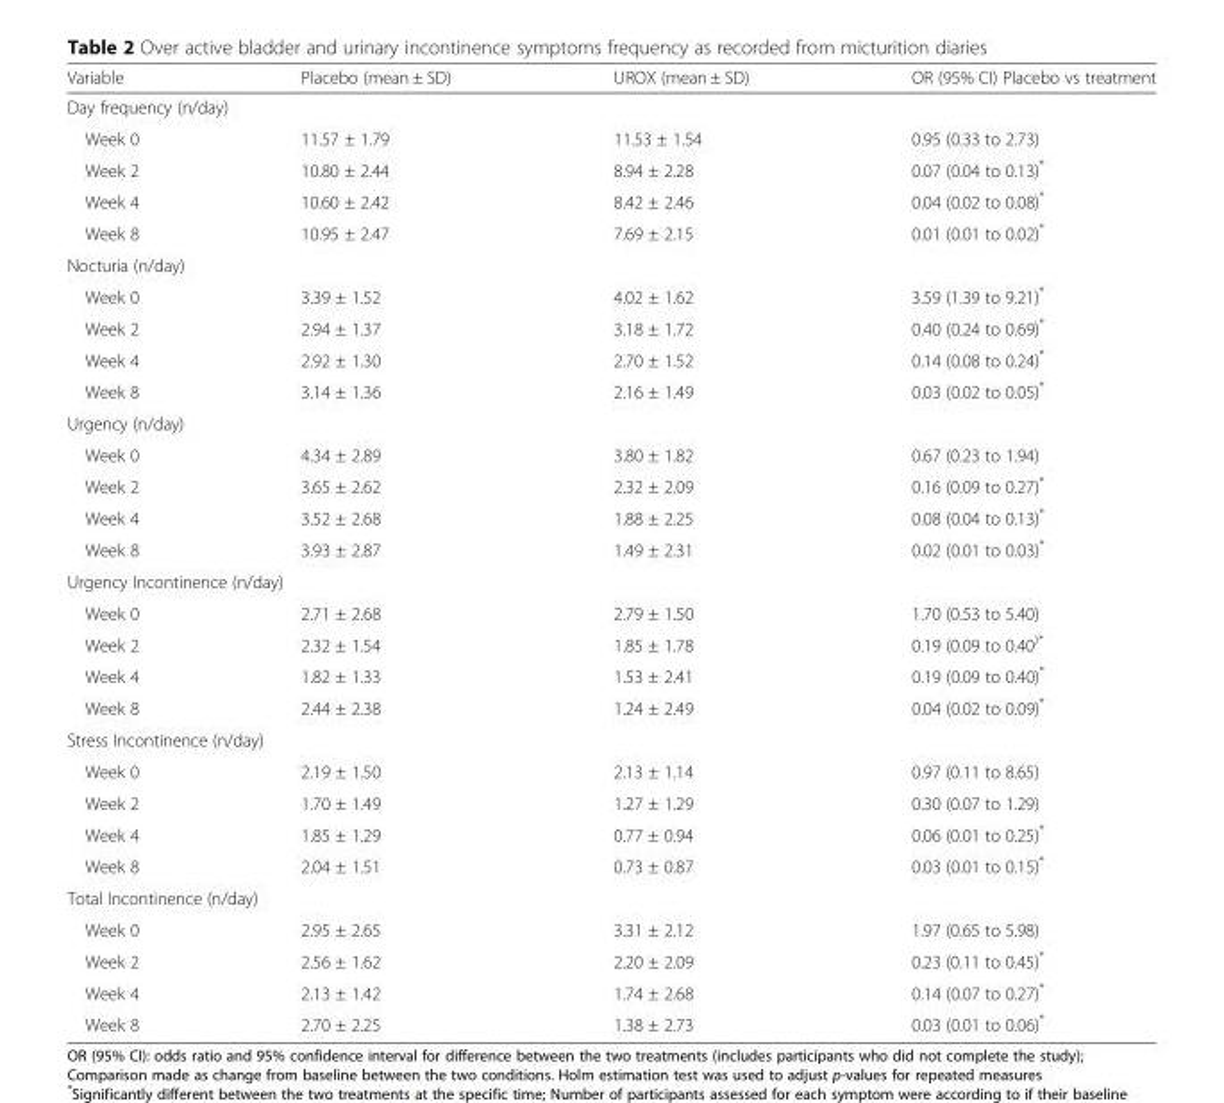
<table><thead><tr><td>Variable</td><td>Placebo (mean ± SD)</td><td>UROX (mean ± SD)</td><td>OR (95% CI) Placebo vs treatment</td></tr></thead><tbody><tr><td colspan="4">Day frequency (n/day)</td></tr><tr><td>Week 0</td><td>11.57 ± 1.79</td><td>11.53 ± 1.54</td><td>0.95 (0.33 to 2.73)</td></tr><tr><td>Week 2</td><td>10.80 ± 2.44</td><td>8.94 ± 2.28</td><td>0.07 (0.04 to 0.13)*</td></tr><tr><td>Week 4</td><td>10.60 ± 2.42</td><td>8.42 ± 2.46</td><td>0.04 (0.02 to 0.08)*</td></tr><tr><td>Week 8</td><td>10.95 ± 2.47</td><td>7.69 ± 2.15</td><td>0.01 (0.01 to 0.02)*</td></tr><tr><td colspan="4">Nocturia (n/day)</td></tr><tr><td>Week 0</td><td>3.39 ± 1.52</td><td>4.02 ± 1.62</td><td>3.59 (1.39 to 9.21)*</td></tr><tr><td>Week 2</td><td>2.94 ± 1.37</td><td>3.18 ± 1.72</td><td>0.40 (0.24 to 0.69)*</td></tr><tr><td>Week 4</td><td>2.92 ± 1.30</td><td>2.70 ± 1.52</td><td>0.14 (0.08 to 0.24)*</td></tr><tr><td>Week 8</td><td>3.14 ± 1.36</td><td>2.16 ± 1.49</td><td>0.03 (0.02 to 0.05)*</td></tr><tr><td colspan="4">Urgency (n/day)</td></tr><tr><td>Week 0</td><td>4.34 ± 2.89</td><td>3.80 ± 1.82</td><td>0.67 (0.23 to 1.94)</td></tr><tr><td>Week 2</td><td>3.65 ± 2.62</td><td>2.32 ± 2.09</td><td>0.16 (0.09 to 0.27)*</td></tr><tr><td>Week 4</td><td>3.52 ± 2.68</td><td>1.88 ± 2.25</td><td>0.08 (0.04 to 0.13)*</td></tr><tr><td>Week 8</td><td>3.93 ± 2.87</td><td>1.49 ± 2.31</td><td>0.02 (0.01 to 0.03)*</td></tr><tr><td colspan="4">Urgency Incontinence (n/day)</td></tr><tr><td>Week 0</td><td>2.71 ± 2.68</td><td>2.79 ± 1.50</td><td>1.70 (0.53 to 5.40)</td></tr><tr><td>Week 2</td><td>2.32 ± 1.54</td><td>1.85 ± 1.78</td><td>0.19 (0.09 to 0.40<sup>)*</sup></td></tr><tr><td>Week 4</td><td>1.82 ± 1.33</td><td>1.53 ± 2.41</td><td>0.19 (0.09 to 0.40)*</td></tr><tr><td>Week 8</td><td>2.44 ± 2.38</td><td>1.24 ± 2.49</td><td>0.04 (0.02 to 0.09)*</td></tr><tr><td colspan="4">Stress Incontinence (n/day)</td></tr><tr><td>Week 0</td><td>2.19 ± 1.50</td><td>2.13 ± 1.14</td><td>0.97 (0.11 to 8.65)</td></tr><tr><td>Week 2</td><td>1.70 ± 1.49</td><td>1.27 ± 1.29</td><td>0.30 (0.07 to 1.29)</td></tr><tr><td>Week 4</td><td>1.85 ± 1.29</td><td>0.77 ± 0.94</td><td>0.06 (0.01 to 0.25)*</td></tr><tr><td>Week 8</td><td>2.04 ± 1.51</td><td>0.73 ± 0.87</td><td>0.03 (0.01 to 0.15)*</td></tr><tr><td colspan="4">Total Incontinence (n/day)</td></tr><tr><td>Week 0</td><td>2.95 ± 2.65</td><td>3.31 ± 2.12</td><td>1.97 (0.65 to 5.98)</td></tr><tr><td>Week 2</td><td>2.56 ± 1.62</td><td>2.20 ± 2.09</td><td>0.23 (0.11 to 0.45)*</td></tr><tr><td>Week 4</td><td>2.13 ± 1.42</td><td>1.74 ± 2.68</td><td>0.14 (0.07 to 0.27)*</td></tr><tr><td>Week 8</td><td>2.70 ± 2.25</td><td>1.38 ± 2.73</td><td>0.03 (0.01 to 0.06)*</td></tr></tbody></table>